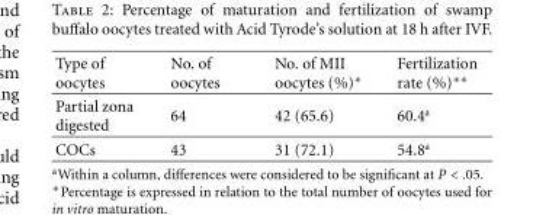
<table><thead><tr><td>Type of oocytes</td><td>No. of oocytes</td><td>No. of MII oocytes (%)∗</td><td>Fertilization rate (%)∗∗</td></tr></thead><tbody><tr><td>Partial zona digested</td><td>64</td><td>42 (65.6)</td><td>60.4<sup>a</sup></td></tr><tr><td>COCs</td><td>43</td><td>31 (72.1)</td><td>54.8<sup>a</sup></td></tr></tbody></table>